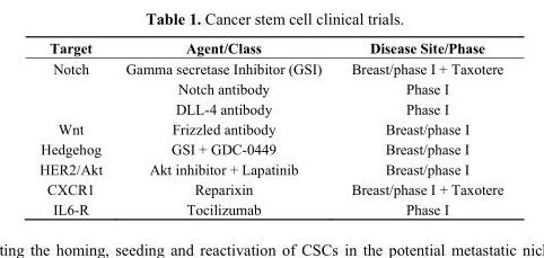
<table><thead><tr><td>Target</td><td>Agent/Class</td><td>Disease Site/Phase</td></tr></thead><tbody><tr><td rowspan="3">Notch</td><td>Gamma secretase Inhibitor (GSI)</td><td>Breast/phase I + Taxotere</td></tr><tr><td>Notch antibody</td><td>Phase I</td></tr><tr><td>DLL-4 antibody</td><td>Phase I</td></tr><tr><td>Wnt</td><td>Frizzled antibody</td><td>Breast/phase I</td></tr><tr><td>Hedgehog</td><td>GSI + GDC-0449</td><td>Breast/phase I</td></tr><tr><td>HER2/Akt</td><td>Akt inhibitor + Lapatinib</td><td>Breast/phase I</td></tr><tr><td>CXCR1</td><td>Reparixin</td><td>Breast/phase I + Taxotere</td></tr><tr><td>IL6-R</td><td>Tocilizumab</td><td>Phase I</td></tr></tbody></table>